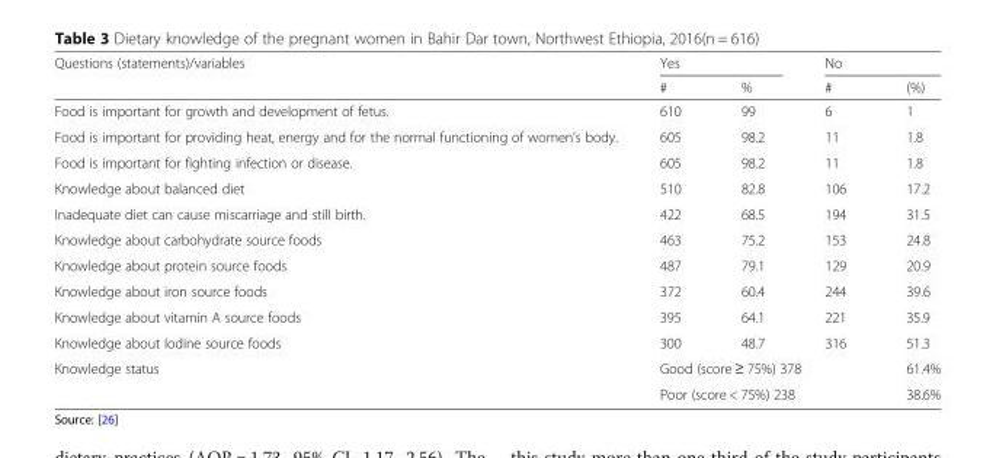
<table><thead><tr><td rowspan="2">Questions (statements)/variables</td><td colspan="2">Yes</td><td colspan="2">No</td></tr><tr><td>#</td><td>%</td><td>#</td><td>(%)</td></tr></thead><tbody><tr><td>Food is important for growth and development of fetus.</td><td>610</td><td>99</td><td>6</td><td>1</td></tr><tr><td>Food is important for providing heat, energy and for the normal functioning of women’s body.</td><td>605</td><td>98.2</td><td>11</td><td>1.8</td></tr><tr><td>Food is important for fighting infection or disease.</td><td>605</td><td>98.2</td><td>11</td><td>1.8</td></tr><tr><td>Knowledge about balanced diet</td><td>510</td><td>82.8</td><td>106</td><td>17.2</td></tr><tr><td>Inadequate diet can cause miscarriage and still birth.</td><td>422</td><td>68.5</td><td>194</td><td>31.5</td></tr><tr><td>Knowledge about carbohydrate source foods</td><td>463</td><td>75.2</td><td>153</td><td>24.8</td></tr><tr><td>Knowledge about protein source foods</td><td>487</td><td>79.1</td><td>129</td><td>20.9</td></tr><tr><td>Knowledge about iron source foods</td><td>372</td><td>60.4</td><td>244</td><td>39.6</td></tr><tr><td>Knowledge about vitamin A source foods</td><td>395</td><td>64.1</td><td>221</td><td>35.9</td></tr><tr><td>Knowledge about Iodine source foods</td><td>300</td><td>48.7</td><td>316</td><td>51.3</td></tr><tr><td rowspan="2">Knowledge status</td><td colspan="3">Good (score ≥ 75%) 378</td><td>61.4%</td></tr><tr><td colspan="3">Poor (score &lt; 75%) 238</td><td>38.6%</td></tr></tbody></table>